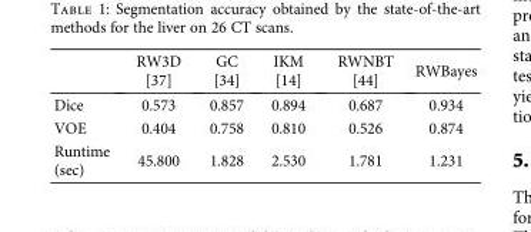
<table><thead><tr><td></td><td>RW3D [37]</td><td>GC [34]</td><td>IKM [14]</td><td>RWNBT [44]</td><td>RWBayes</td></tr></thead><tbody><tr><td>Dice</td><td>0.573</td><td>0.857</td><td>0.894</td><td>0.687</td><td>0.934</td></tr><tr><td>VOE</td><td>0.404</td><td>0.758</td><td>0.810</td><td>0.526</td><td>0.874</td></tr><tr><td>Runtime (sec)</td><td>45.800</td><td>1.828</td><td>2.530</td><td>1.781</td><td>1.231</td></tr></tbody></table>